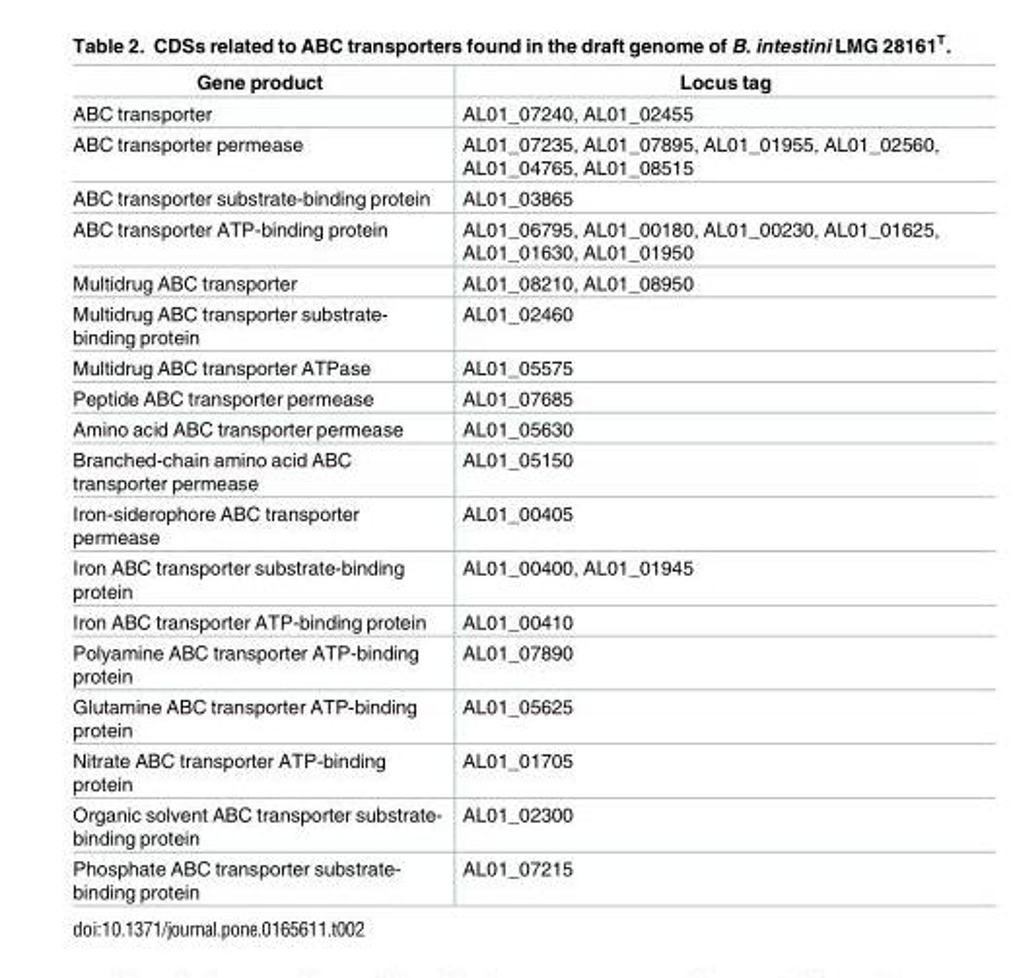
<table><thead><tr><td>Gene product</td><td>Locus tag</td></tr></thead><tbody><tr><td>ABC transporter</td><td>AL01_07240, AL01_02455</td></tr><tr><td>ABC transporter permease</td><td>AL01_07235, AL01_07895, AL01_01955, AL01_02560, AL01_04765, AL01_08515</td></tr><tr><td>ABC transporter substrate-binding protein</td><td>AL01_03865</td></tr><tr><td>ABC transporter ATP-binding protein</td><td>AL01_06795, AL01_00180, AL01_00230, AL01_01625, AL01_01630, AL01_01950</td></tr><tr><td>Multidrug ABC transporter</td><td>AL01_08210, AL01_08950</td></tr><tr><td>Multidrug ABC transporter substrate- binding protein</td><td>AL01_02460</td></tr><tr><td>Multidrug ABC transporter ATPase</td><td>AL01_05575</td></tr><tr><td>Peptide ABC transporter permease</td><td>AL01_07685</td></tr><tr><td>Amino acid ABC transporter permease</td><td>AL01_05630</td></tr><tr><td>Branched-chain amino acid ABC transporter permease</td><td>AL01_05150</td></tr><tr><td>Iron-siderophore ABC transporter permease</td><td>AL01_00405</td></tr><tr><td>Iron ABC transporter substrate-binding protein</td><td>AL01_00400, AL01_01945</td></tr><tr><td>Iron ABC transporter ATP-binding protein</td><td>AL01_00410</td></tr><tr><td>Polyamine ABC transporter ATP-binding protein</td><td>AL01_07890</td></tr><tr><td>Glutamine ABC transporter ATP-binding protein</td><td>AL01_05625</td></tr><tr><td>Nitrate ABC transporter ATP-binding protein</td><td>AL01_01705</td></tr><tr><td>Organic solvent ABC transporter substrate- binding protein</td><td>AL01_02300</td></tr><tr><td>Phosphate ABC transporter substrate- binding protein</td><td>AL01_07215</td></tr></tbody></table>